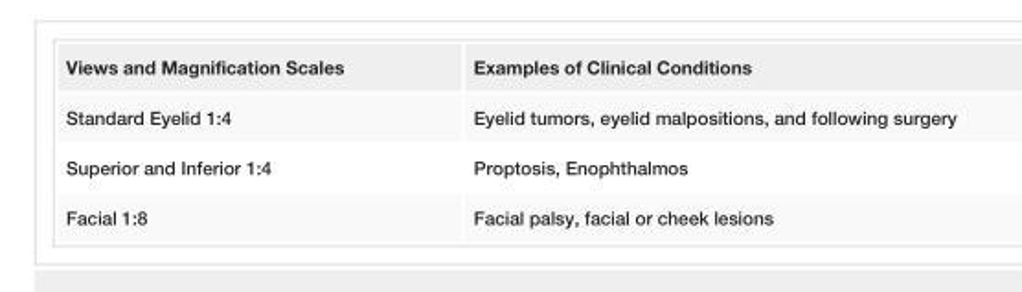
<table><tbody><tr><td>Views and Magnification Scales</td><td>Examples of Clinical Conditions</td></tr><tr><td>Standard Eyelid 1:4</td><td>Eyelid tumors, eyelid malpositions, and following surgery</td></tr><tr><td>Superior and Inferior 1:4</td><td>Proptosis, Enophthalmos</td></tr><tr><td>Facial 1:8</td><td>Facial palsy, facial or cheek lesions</td></tr></tbody></table>